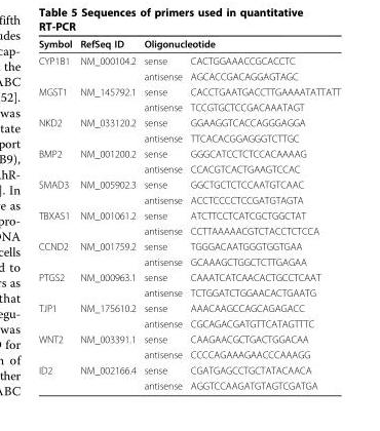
<table><thead><tr><td rowspan="2">Symbol CYP1B1</td><td rowspan="2">RefSeq ID NM_000104.2</td><td colspan="2">Oligonucleotide</td></tr><tr><td>sense</td><td>CACTGGAAACCGCACCTC</td></tr></thead><tbody><tr><td></td><td></td><td>antisense</td><td>AGCACCGACAGGAGTAGC</td></tr><tr><td rowspan="2">MGST1</td><td>NM_145792.1</td><td>sense</td><td>CACCTGAATGACCTTGAAAATATTATT</td></tr><tr><td></td><td>antisense</td><td>TCCGTGCTCCGACAAATAGT</td></tr><tr><td rowspan="2">NKD2</td><td>NM_033120.2</td><td>sense</td><td>GGAAGGTCACCAGGGAGGA</td></tr><tr><td></td><td>antisense</td><td>TTCACACGGAGGGTCTTGC</td></tr><tr><td rowspan="2">BMP2</td><td>NM_001200.2</td><td>sense</td><td>GGGCATCCTCTCCACAAAAG</td></tr><tr><td></td><td>antisense</td><td>CCACGTCACTGAAGTCCAC</td></tr><tr><td rowspan="2">SMAD3</td><td>NM_005902.3</td><td>sense</td><td>GGCTGCTCTCCAATGTCAAC</td></tr><tr><td></td><td>antisense</td><td>ACCTCCCCTCCGATGTAGTA</td></tr><tr><td rowspan="2">TBXAS1</td><td>NM_001061.2</td><td>sense</td><td>ATCTTCCTCATCGCTGGCTAT</td></tr><tr><td></td><td>antisense</td><td>CCTTAAAAACGTCTACCTCTCCA</td></tr><tr><td rowspan="2">CCND2</td><td>NM_001759.2</td><td>sense</td><td>TGGGACAATGGGTGGTGAA</td></tr><tr><td></td><td>antisense</td><td>GCAAAGCTGGCTCTTGAGAA</td></tr><tr><td rowspan="2">PTGS2</td><td>NM_000963.1</td><td>sense</td><td>CAAATCATCAACACTGCCTCAAT</td></tr><tr><td></td><td>antisense</td><td>TCTGGATCTGGAACACTGAATG</td></tr><tr><td rowspan="2">TJP1</td><td>NM_175610.2</td><td>sense</td><td>AAACAAGCCAGCAGAGACC</td></tr><tr><td></td><td>antisense</td><td>CGCAGACGATGTTCATAGTTTC</td></tr><tr><td rowspan="2">WNT2</td><td>NM_003391.1</td><td>sense</td><td>CAAGAACGCTGACTGGACAA</td></tr><tr><td></td><td>antisense</td><td>CCCCAGAAAGAACCCAAAGG</td></tr><tr><td rowspan="2">ID2</td><td>NM_002166.4</td><td>sense</td><td>CGATGAGCCTGCTATACAACA</td></tr><tr><td></td><td>antisense</td><td>AGGTCCAAGATGTAGTCGATGA</td></tr></tbody></table>